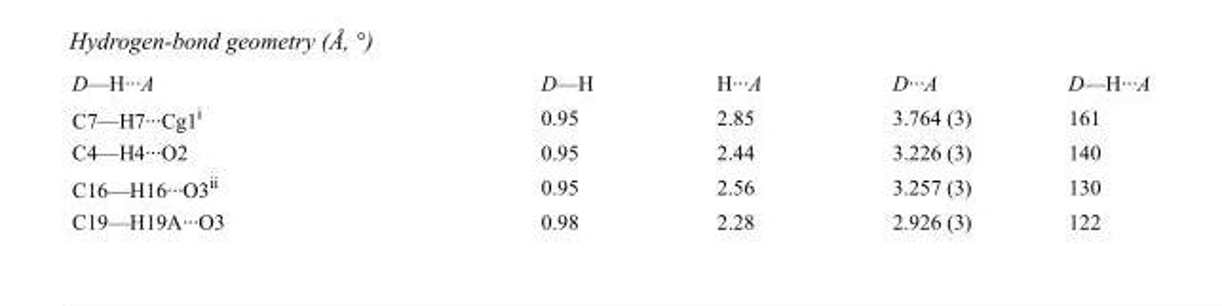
<table><tbody><tr><td>D—H···A</td><td>D—H</td><td>H···A</td><td>D···A</td><td>D—H···A</td></tr><tr><td>C7—H7···Cg1<sup>i</sup></td><td>0.95</td><td>2.85</td><td>3.764 (3)</td><td>161</td></tr><tr><td>C4—H4···O2</td><td>0.95</td><td>2.44</td><td>3.226 (3)</td><td>140</td></tr><tr><td>C16—H16···O3<sup>ii</sup></td><td>0.95</td><td>2.56</td><td>3.257 (3)</td><td>130</td></tr><tr><td>C19—H19A···O3</td><td>0.98</td><td>2.28</td><td>2.926 (3)</td><td>122</td></tr></tbody></table>